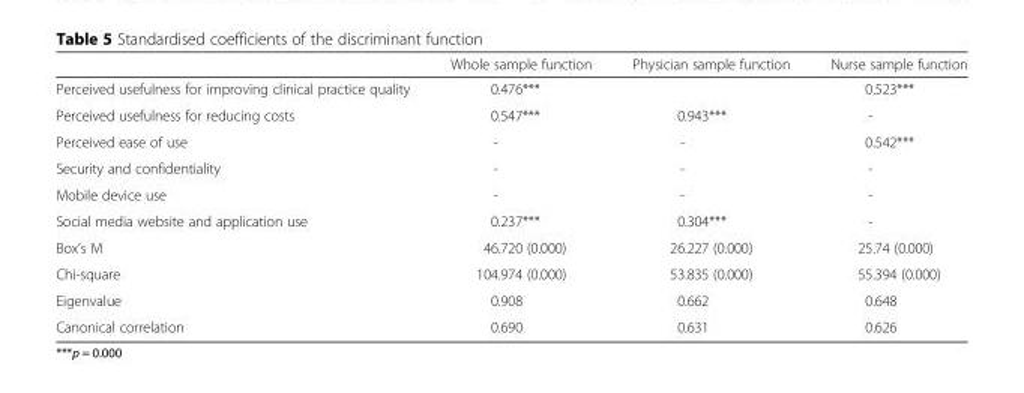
<table><thead><tr><td></td><td>Whole sample function</td><td>Physician sample function</td><td>Nurse sample function</td></tr></thead><tbody><tr><td>Perceived usefulness for improving clinical practice quality</td><td>0.476***</td><td></td><td>0.523***</td></tr><tr><td>Perceived usefulness for reducing costs</td><td>0.547***</td><td>0.943***</td><td>-</td></tr><tr><td>Perceived ease of use</td><td>-</td><td>-</td><td>0.542***</td></tr><tr><td>Security and confidentiality</td><td>-</td><td>-</td><td>-</td></tr><tr><td>Mobile device use</td><td>-</td><td>-</td><td>-</td></tr><tr><td>Social media website and application use</td><td>0.237***</td><td>0.304***</td><td>-</td></tr><tr><td>Box’s M</td><td>46.720 (0.000)</td><td>26.227 (0.000)</td><td>25.74 (0.000)</td></tr><tr><td>Chi-square</td><td>104.974 (0.000)</td><td>53.835 (0.000)</td><td>55.394 (0.000)</td></tr><tr><td>Eigenvalue</td><td>0.908</td><td>0.662</td><td>0.648</td></tr><tr><td>Canonical correlation</td><td>0.690</td><td>0.631</td><td>0.626</td></tr></tbody></table>